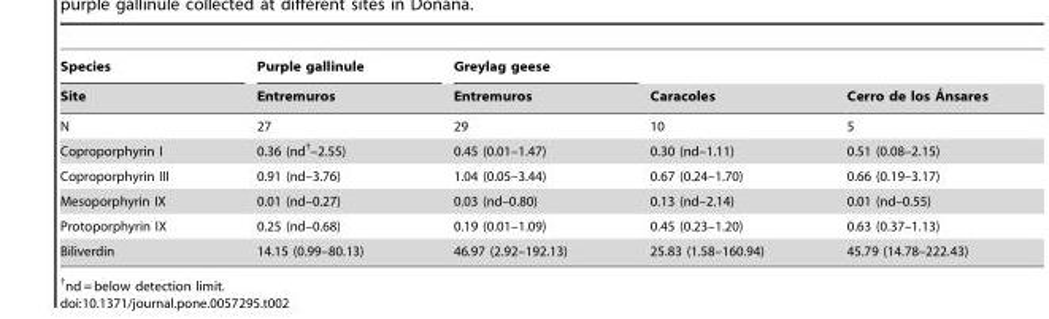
<table><thead><tr><td rowspan="2">Species Site</td><td rowspan="2">Purple gallinule Entremuros</td><td rowspan="2">Greylag geese Entremuros</td><td rowspan="2">Caracoles</td><td rowspan="2">Cerro de los A´ nsares</td></tr><tr></tr></thead><tbody><tr><td>N</td><td>27</td><td>29</td><td>10</td><td>5</td></tr><tr><td>Coproporphyrin I</td><td>0.36 (nd†–2.55)</td><td>0.45 (0.01–1.47)</td><td>0.30 (nd–1.11)</td><td>0.51 (0.08–2.15)</td></tr><tr><td>Coproporphyrin III</td><td>0.91 (nd–3.76)</td><td>1.04 (0.05–3.44)</td><td>0.67 (0.24–1.70)</td><td>0.66 (0.19–3.17)</td></tr><tr><td>Mesoporphyrin IX</td><td>0.01 (nd–0.27)</td><td>0.03 (nd–0.80)</td><td>0.13 (nd–2.14)</td><td>0.01 (nd–0.55)</td></tr><tr><td>Protoporphyrin IX</td><td>0.25 (nd–0.68)</td><td>0.19 (0.01–1.09)</td><td>0.45 (0.23–1.20)</td><td>0.63 (0.37–1.13)</td></tr><tr><td>Biliverdin</td><td>14.15 (0.99–80.13)</td><td>46.97 (2.92–192.13)</td><td>25.83 (1.58–160.94)</td><td>45.79 (14.78–222.43)</td></tr></tbody></table>